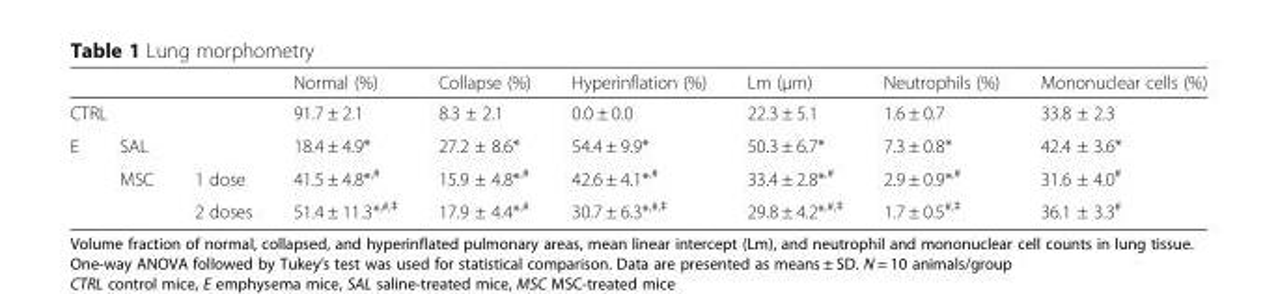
<table><thead><tr><td></td><td></td><td></td><td>Normal (%)</td><td>Collapse (%)</td><td>Hyperinflation (%)</td><td>Lm (μm)</td><td>Neutrophils (%)</td><td>Mononuclear cells (%)</td></tr></thead><tbody><tr><td colspan="3">CTRL</td><td>91.7 ± 2.1</td><td>8.3 ± 2.1</td><td>0.0 ± 0.0</td><td>22.3 ± 5.1</td><td>1.6 ± 0.7</td><td>33.8 ± 2.3</td></tr><tr><td rowspan="3">E</td><td colspan="2">SAL</td><td>18.4 ± 4.9*</td><td>27.2 ± 8.6*</td><td>54.4 ± 9.9*</td><td>50.3 ± 6.7*</td><td>7.3 ± 0.8*</td><td>42.4 ± 3.6*</td></tr><tr><td rowspan="2">MSC</td><td>1 dose</td><td>41.5 ± 4.8*<sup>,#</sup></td><td>15.9 ± 4.8*<sup>,#</sup></td><td>42.6 ± 4.1*<sup>,#</sup></td><td>33.4 ± 2.8*<sup>,#</sup></td><td>2.9 ± 0.9*<sup>,#</sup></td><td>31.6 ± 4.0<sup>#</sup></td></tr><tr><td>2 doses</td><td>51.4 ± 11.3*<sup>,#,ǂ</sup></td><td>17.9 ± 4.4*<sup>,#</sup></td><td>30.7 ± 6.3*<sup>,#,ǂ</sup></td><td>29.8 ± 4.2*<sup>,#,ǂ</sup></td><td>1.7 ± 0.5<sup>#,ǂ</sup></td><td>36.1 ± 3.3<sup>#</sup></td></tr></tbody></table>